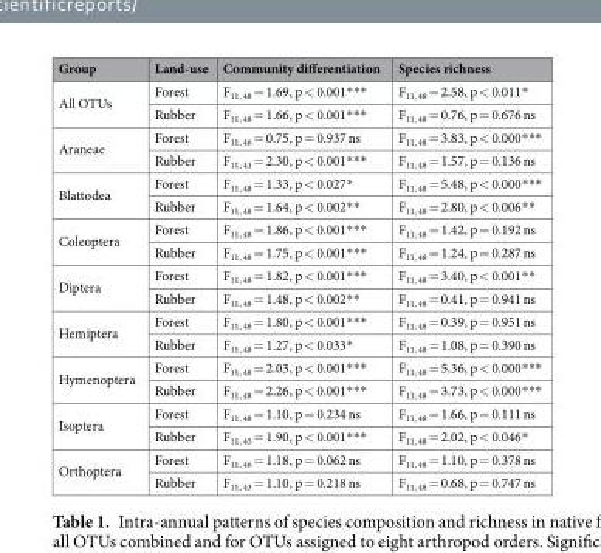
<table><thead><tr><td>Group</td><td>Land-use</td><td>Community differentiation</td><td>Species richness</td></tr></thead><tbody><tr><td rowspan="2">All OTUs</td><td>Forest</td><td>F<sub>11, 48</sub> = 1.69, p &lt; 0.001***</td><td>F<sub>11, 48</sub> = 2.58, p &lt; 0.011*</td></tr><tr><td>Rubber</td><td>F<sub>11, 48</sub> = 1.66, p &lt; 0.001***</td><td>F<sub>11, 48</sub> = 0.76, p = 0.676 ns</td></tr><tr><td rowspan="2">Araneae</td><td>Forest</td><td>F<sub>11, 46</sub> = 0.75, p = 0.937 ns</td><td>F<sub>11, 48</sub> = 3.83, p &lt; 0.000***</td></tr><tr><td>Rubber</td><td>F<sub>11, 41</sub> = 2.30, p &lt; 0.001***</td><td>F<sub>11, 48</sub> = 1.57, p = 0.136 ns</td></tr><tr><td rowspan="2">Blattodea</td><td>Forest</td><td>F<sub>11, 48</sub> = 1.33, p &lt; 0.027*</td><td>F<sub>11, 48</sub> = 5.48, p &lt; 0.000***</td></tr><tr><td>Rubber</td><td>F<sub>11, 48</sub> = 1.64, p &lt; 0.002**</td><td>F<sub>11, 48</sub> = 2.80, p &lt; 0.006**</td></tr><tr><td rowspan="2">Coleoptera</td><td>Forest</td><td>F<sub>11, 48</sub> = 1.86, p &lt; 0.001***</td><td>F<sub>11, 48</sub> = 1.42, p = 0.192 ns</td></tr><tr><td>Rubber</td><td>F<sub>11, 48</sub> = 1.75, p &lt; 0.001***</td><td>F<sub>11, 48</sub> = 1.24, p = 0.287 ns</td></tr><tr><td rowspan="2">Diptera</td><td>Forest</td><td>F<sub>11, 48</sub> = 1.82, p &lt; 0.001***</td><td>F<sub>11, 48</sub> = 3.40, p &lt; 0.001**</td></tr><tr><td>Rubber</td><td>F<sub>11, 48</sub> = 1.48, p &lt; 0.002**</td><td>F<sub>11, 48</sub> = 0.41, p = 0.941 ns</td></tr><tr><td rowspan="2">Hemiptera</td><td>Forest</td><td>F<sub>11, 48</sub> = 1.80, p &lt; 0.001***</td><td>F<sub>11, 48</sub> = 0.39, p = 0.951 ns</td></tr><tr><td>Rubber</td><td>F<sub>11, 48</sub> = 1.27, p &lt; 0.033*</td><td>F<sub>11, 48</sub> = 1.08, p = 0.390 ns</td></tr><tr><td rowspan="2">Hymenoptera</td><td>Forest</td><td>F<sub>11, 48</sub> = 2.03, p &lt; 0.001***</td><td>F<sub>11, 48</sub> = 5.36, p &lt; 0.000***</td></tr><tr><td>Rubber</td><td>F<sub>11, 48</sub> = 2.26, p &lt; 0.001***</td><td>F<sub>11, 48</sub> = 3.73, p &lt; 0.000***</td></tr><tr><td rowspan="2">Isoptera</td><td>Forest</td><td>F<sub>11, 48</sub> = 1.10, p = 0.234 ns</td><td>F<sub>11, 48</sub> = 1.66, p = 0.111 ns</td></tr><tr><td>Rubber</td><td>F<sub>11, 45</sub> = 1.90, p &lt; 0.001***</td><td>F<sub>11, 48</sub> = 2.02, p &lt; 0.046*</td></tr><tr><td rowspan="2">Orthoptera</td><td>Forest</td><td>F<sub>11, 46</sub> = 1.18, p = 0.062 ns</td><td>F<sub>11, 48</sub> = 1.10, p = 0.378 ns</td></tr><tr><td>Rubber</td><td>F<sub>11, 43</sub> = 1.10, p = 0.218 ns</td><td>F<sub>11, 48</sub> = 0.68, p = 0.747 ns</td></tr></tbody></table>